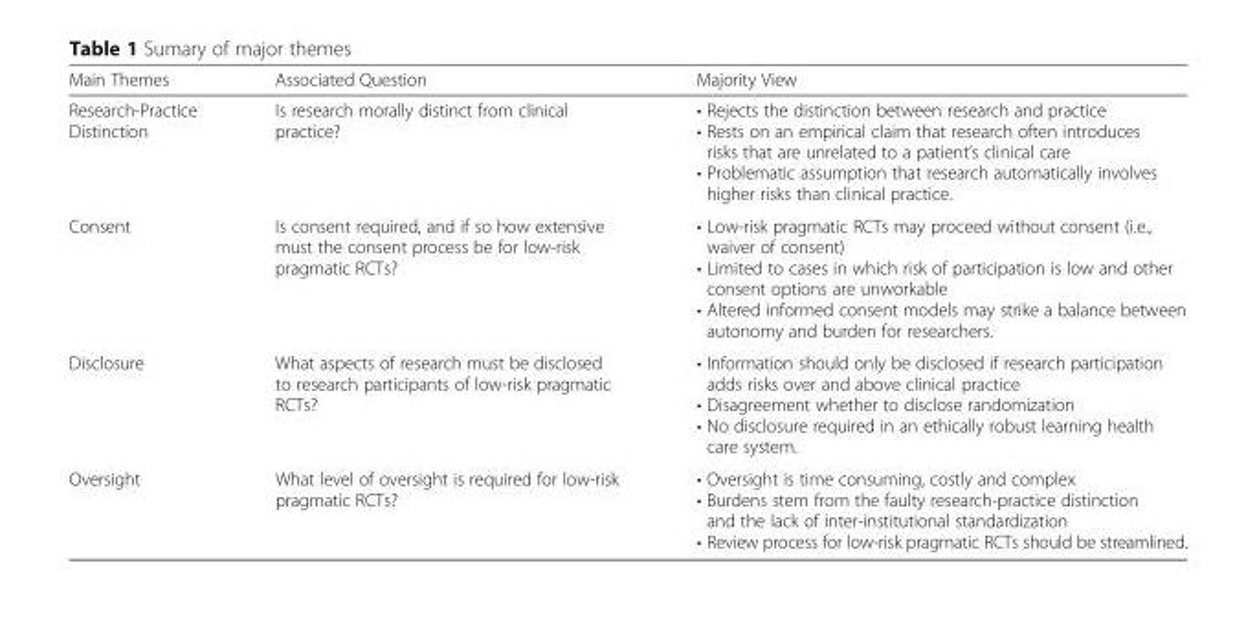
<table><thead><tr><td>Main Themes</td><td>Associated Question</td><td>Majority View</td></tr></thead><tbody><tr><td>Research-Practice Distinction</td><td>Is research morally distinct from clinical practice?</td><td>• Rejects the distinction between research and practice • Rests on an empirical claim that research often introduces risks that are unrelated to a patient’s clinical care • Problematic assumption that research automatically involves higher risks than clinical practice.</td></tr><tr><td>Consent</td><td>Is consent required, and if so how extensive must the consent process be for low-risk pragmatic RCTs?</td><td>• Low-risk pragmatic RCTs may proceed without consent (i.e., waiver of consent) • Limited to cases in which risk of participation is low and other consent options are unworkable • Altered informed consent models may strike a balance between autonomy and burden for researchers.</td></tr><tr><td>Disclosure</td><td>What aspects of research must be disclosed to research participants of low-risk pragmatic RCTs?</td><td>• Information should only be disclosed if research participation adds risks over and above clinical practice • Disagreement whether to disclose randomization • No disclosure required in an ethically robust learning health care system.</td></tr><tr><td>Oversight</td><td>What level of oversight is required for low-risk pragmatic RCTs?</td><td>• Oversight is time consuming, costly and complex • Burdens stem from the faulty research-practice distinction and the lack of inter-institutional standardization • Review process for low-risk pragmatic RCTs should be streamlined.</td></tr></tbody></table>